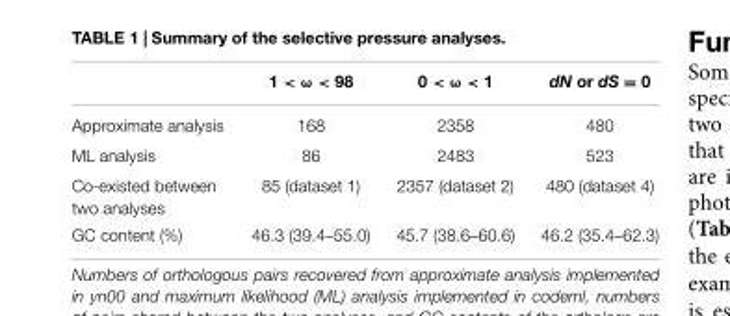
<table><thead><tr><td></td><td>1 &lt; ω &lt; 98</td><td>0 &lt; ω &lt; 1</td><td>dN or dS = 0</td></tr></thead><tbody><tr><td>Approximate analysis</td><td>168</td><td>2358</td><td>480</td></tr><tr><td>ML analysis</td><td>86</td><td>2483</td><td>523</td></tr><tr><td>Co-existed between two analyses</td><td>85 (dataset 1)</td><td>2357 (dataset 2)</td><td>480 (dataset 4)</td></tr><tr><td>GC content (%)</td><td>46.3 (39.4–55.0)</td><td>45.7 (38.6–60.6)</td><td>46.2 (35.4–62.3)</td></tr></tbody></table>